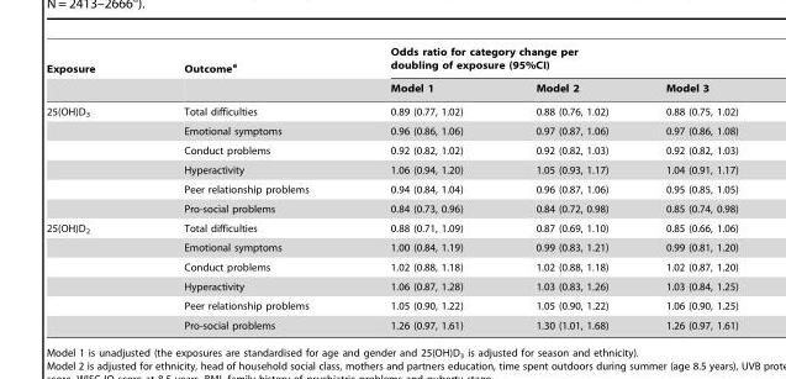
<table><thead><tr><td rowspan="2">Exposure</td><td rowspan="2">Outcome<sup>a</sup></td><td colspan="3">Odds ratio for category change per doubling of exposure (95%CI)</td></tr><tr><td>Model 1</td><td>Model 2</td><td>Model 3</td></tr></thead><tbody><tr><td rowspan="6">25(OH)D<sub>3</sub></td><td>Total difficulties</td><td>0.89 (0.77, 1.02)</td><td>0.88 (0.76, 1.02)</td><td>0.88 (0.75, 1.02)</td></tr><tr><td>Emotional symptoms</td><td>0.96 (0.86, 1.06)</td><td>0.97 (0.87, 1.06)</td><td>0.97 (0.86, 1.08)</td></tr><tr><td>Conduct problems</td><td>0.92 (0.82, 1.02)</td><td>0.92 (0.82, 1.03)</td><td>0.92 (0.82, 1.03)</td></tr><tr><td>Hyperactivity</td><td>1.06 (0.94, 1.20)</td><td>1.05 (0.93, 1.17)</td><td>1.04 (0.91, 1.17)</td></tr><tr><td>Peer relationship problems</td><td>0.94 (0.84, 1.04)</td><td>0.96 (0.87, 1.06)</td><td>0.95 (0.85, 1.05)</td></tr><tr><td>Pro-social problems</td><td>0.84 (0.73, 0.96)</td><td>0.84 (0.72, 0.98)</td><td>0.85 (0.74, 0.98)</td></tr><tr><td rowspan="6">25(OH)D<sub>2</sub></td><td>Total difficulties</td><td>0.88 (0.71, 1.09)</td><td>0.87 (0.69, 1.10)</td><td>0.85 (0.66, 1.06)</td></tr><tr><td>Emotional symptoms</td><td>1.00 (0.84, 1.19)</td><td>0.99 (0.83, 1.21)</td><td>0.99 (0.81, 1.20)</td></tr><tr><td>Conduct problems</td><td>1.02 (0.88, 1.18)</td><td>1.02 (0.88, 1.18)</td><td>1.02 (0.87, 1.20)</td></tr><tr><td>Hyperactivity</td><td>1.06 (0.87, 1.28)</td><td>1.03 (0.83, 1.26)</td><td>1.03 (0.84, 1.25)</td></tr><tr><td>Peer relationship problems</td><td>1.05 (0.90, 1.22)</td><td>1.05 (0.90, 1.22)</td><td>1.06 (0.90, 1.25)</td></tr><tr><td>Pro-social problems</td><td>1.26 (0.97, 1.61)</td><td>1.30 (1.01, 1.68)</td><td>1.26 (0.97, 1.61)</td></tr></tbody></table>